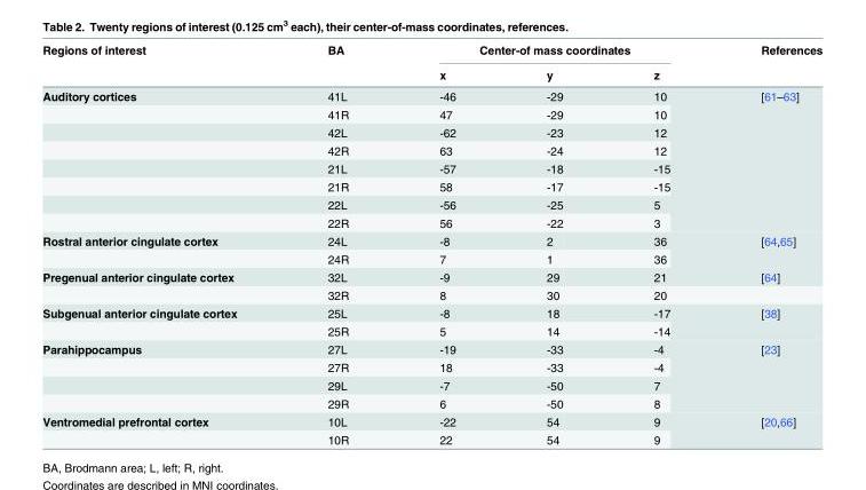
<table><thead><tr><td rowspan="2">Regions of interest</td><td rowspan="2">BA</td><td colspan="3">Center-of mass coordinates</td><td rowspan="2">References</td></tr><tr><td>x</td><td>y</td><td>z</td></tr></thead><tbody><tr><td rowspan="8">Auditory cortices</td><td>41L</td><td>-46</td><td>-29</td><td>10</td><td rowspan="8">[61–63]</td></tr><tr><td>41R</td><td>47</td><td>-29</td><td>10</td></tr><tr><td>42L</td><td>-62</td><td>-23</td><td>12</td></tr><tr><td>42R</td><td>63</td><td>-24</td><td>12</td></tr><tr><td>21L</td><td>-57</td><td>-18</td><td>-15</td></tr><tr><td>21R</td><td>58</td><td>-17</td><td>-15</td></tr><tr><td>22L</td><td>-56</td><td>-25</td><td>5</td></tr><tr><td>22R</td><td>56</td><td>-22</td><td>3</td></tr><tr><td rowspan="2">Rostral anterior cingulate cortex</td><td>24L</td><td>-8</td><td>2</td><td>36</td><td rowspan="2">[64,65]</td></tr><tr><td>24R</td><td>7</td><td>1</td><td>36</td></tr><tr><td rowspan="2">Pregenual anterior cingulate cortex</td><td>32L</td><td>-9</td><td>29</td><td>21</td><td>[64]</td></tr><tr><td>32R</td><td>8</td><td>30</td><td>20</td><td></td></tr><tr><td rowspan="2">Subgenual anterior cingulate cortex</td><td>25L</td><td>-8</td><td>18</td><td>-17</td><td rowspan="2">[38]</td></tr><tr><td>25R</td><td>5</td><td>14</td><td>-14</td></tr><tr><td rowspan="4">Parahippocampus</td><td>27L</td><td>-19</td><td>-33</td><td>-4</td><td rowspan="4">[23]</td></tr><tr><td>27R</td><td>18</td><td>-33</td><td>-4</td></tr><tr><td>29L</td><td>-7</td><td>-50</td><td>7</td></tr><tr><td>29R</td><td>6</td><td>-50</td><td>8</td></tr><tr><td rowspan="2">Ventromedial prefrontal cortex</td><td>10L</td><td>-22</td><td>54</td><td>9</td><td rowspan="2">[20,66]</td></tr><tr><td>10R</td><td>22</td><td>54</td><td>9</td></tr></tbody></table>